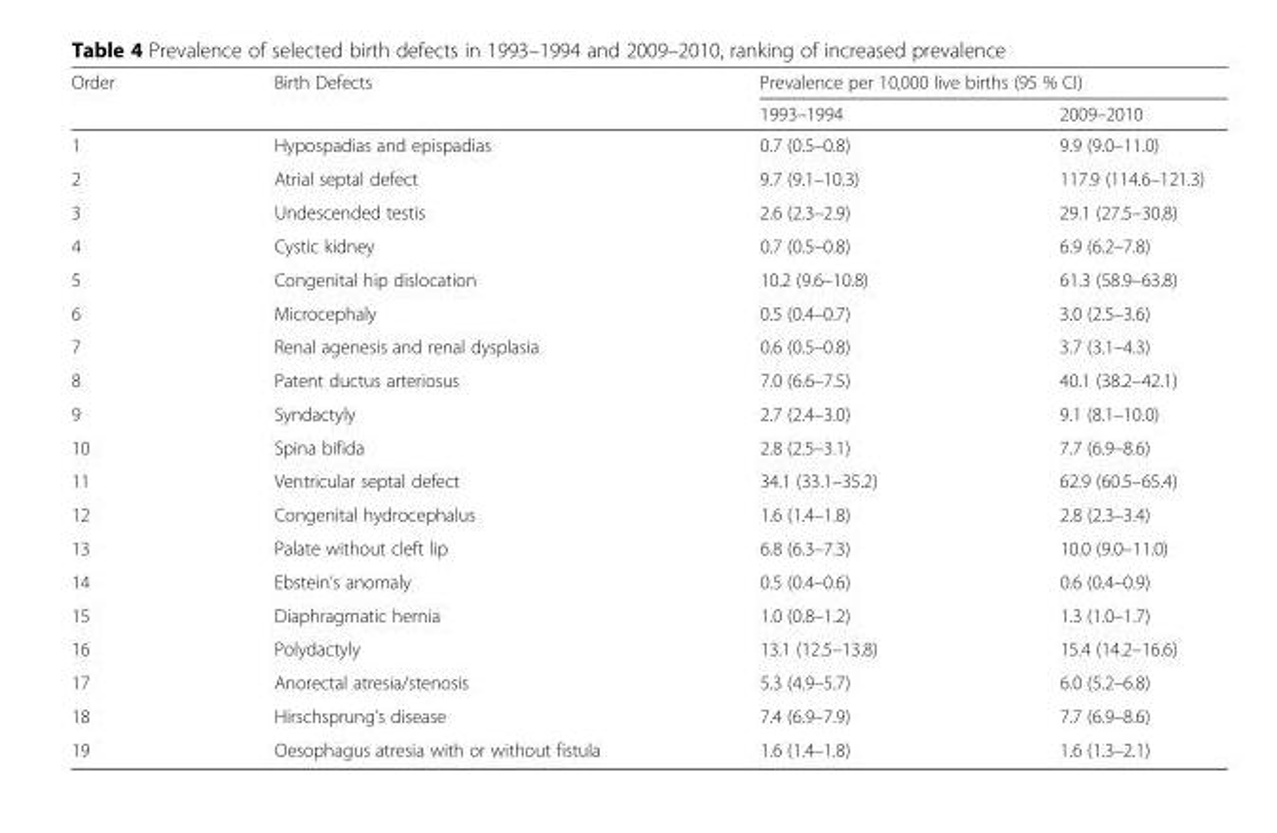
<table><thead><tr><td rowspan="2">Order</td><td rowspan="2">Birth Defects</td><td colspan="2">Prevalence per 10,000 live births (95 % CI)</td></tr><tr><td>1993–1994</td><td>2009–2010</td></tr></thead><tbody><tr><td>1</td><td>Hypospadias and epispadias</td><td>0.7 (0.5–0.8)</td><td>9.9 (9.0–11.0)</td></tr><tr><td>2</td><td>Atrial septal defect</td><td>9.7 (9.1–10.3)</td><td>117.9 (114.6–121.3)</td></tr><tr><td>3</td><td>Undescended testis</td><td>2.6 (2.3–2.9)</td><td>29.1 (27.5–30.8)</td></tr><tr><td>4</td><td>Cystic kidney</td><td>0.7 (0.5–0.8)</td><td>6.9 (6.2–7.8)</td></tr><tr><td>5</td><td>Congenital hip dislocation</td><td>10.2 (9.6–10.8)</td><td>61.3 (58.9–63.8)</td></tr><tr><td>6</td><td>Microcephaly</td><td>0.5 (0.4–0.7)</td><td>3.0 (2.5–3.6)</td></tr><tr><td>7</td><td>Renal agenesis and renal dysplasia</td><td>0.6 (0.5–0.8)</td><td>3.7 (3.1–4.3)</td></tr><tr><td>8</td><td>Patent ductus arteriosus</td><td>7.0 (6.6–7.5)</td><td>40.1 (38.2–42.1)</td></tr><tr><td>9</td><td>Syndactyly</td><td>2.7 (2.4–3.0)</td><td>9.1 (8.1–10.0)</td></tr><tr><td>10</td><td>Spina bifida</td><td>2.8 (2.5–3.1)</td><td>7.7 (6.9–8.6)</td></tr><tr><td>11</td><td>Ventricular septal defect</td><td>34.1 (33.1–35.2)</td><td>62.9 (60.5–65.4)</td></tr><tr><td>12</td><td>Congenital hydrocephalus</td><td>1.6 (1.4–1.8)</td><td>2.8 (2.3–3.4)</td></tr><tr><td>13</td><td>Palate without cleft lip</td><td>6.8 (6.3–7.3)</td><td>10.0 (9.0–11.0)</td></tr><tr><td>14</td><td>Ebstein’s anomaly</td><td>0.5 (0.4–0.6)</td><td>0.6 (0.4–0.9)</td></tr><tr><td>15</td><td>Diaphragmatic hernia</td><td>1.0 (0.8–1.2)</td><td>1.3 (1.0–1.7)</td></tr><tr><td>16</td><td>Polydactyly</td><td>13.1 (12.5–13.8)</td><td>15.4 (14.2–16.6)</td></tr><tr><td>17</td><td>Anorectal atresia/stenosis</td><td>5.3 (4.9–5.7)</td><td>6.0 (5.2–6.8)</td></tr><tr><td>18</td><td>Hirschsprung’s disease</td><td>7.4 (6.9–7.9)</td><td>7.7 (6.9–8.6)</td></tr><tr><td>19</td><td>Oesophagus atresia with or without fistula</td><td>1.6 (1.4–1.8)</td><td>1.6 (1.3–2.1)</td></tr></tbody></table>